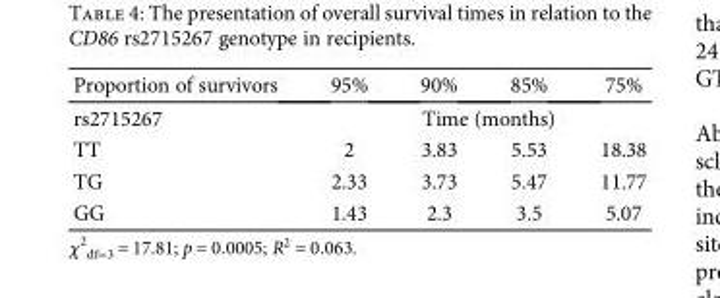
<table><thead><tr><td>Proportion of survivors</td><td>95%</td><td>90%</td><td>85%</td><td>75%</td></tr></thead><tbody><tr><td>rs2715267</td><td colspan="4">Time (months)</td></tr><tr><td>TT</td><td>2</td><td>3.83</td><td>5.53</td><td>18.38</td></tr><tr><td>TG</td><td>2.33</td><td>3.73</td><td>5.47</td><td>11.77</td></tr><tr><td>GG</td><td>1.43</td><td>2.3</td><td>3.5</td><td>5.07</td></tr></tbody></table>